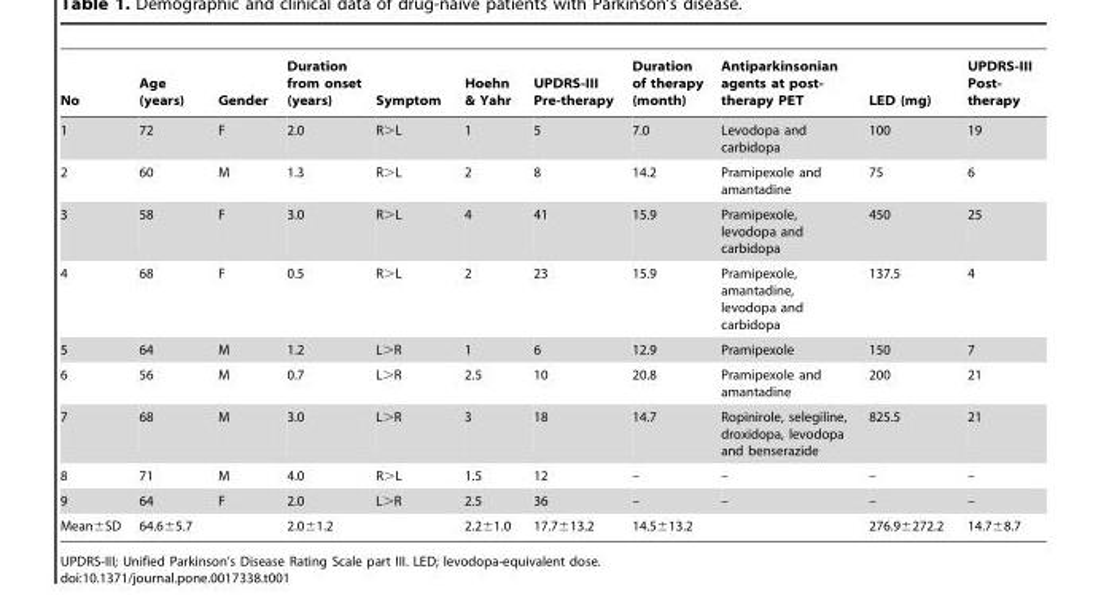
<table><thead><tr><td>No</td><td>Age (years)</td><td>Gender</td><td>Duration from onset (years)</td><td>Symptom</td><td>Hoehn &amp; Yahr</td><td>UPDRS-III Pre-therapy</td><td>Duration of therapy (month)</td><td>Antiparkinsonian agents at post- therapy PET</td><td>LED (mg)</td><td>UPDRS-III Post- therapy</td></tr></thead><tbody><tr><td>1</td><td>72</td><td>F</td><td>2.0</td><td>R&gt;L</td><td>1</td><td>5</td><td>7.0</td><td>Levodopa and carbidopa</td><td>100</td><td>19</td></tr><tr><td>2</td><td>60</td><td>M</td><td>1.3</td><td>R&gt;L</td><td>2</td><td>8</td><td>14.2</td><td>Pramipexole and amantadine</td><td>75</td><td>6</td></tr><tr><td>3</td><td>58</td><td>F</td><td>3.0</td><td>R&gt;L</td><td>4</td><td>41</td><td>15.9</td><td>Pramipexole, levodopa and carbidopa</td><td>450</td><td>25</td></tr><tr><td>4</td><td>68</td><td>F</td><td>0.5</td><td>R&gt;L</td><td>2</td><td>23</td><td>15.9</td><td>Pramipexole, amantadine, levodopa and carbidopa</td><td>137.5</td><td>4</td></tr><tr><td>5</td><td>64</td><td>M</td><td>1.2</td><td>L&gt;R</td><td>1</td><td>6</td><td>12.9</td><td>Pramipexole</td><td>150</td><td>7</td></tr><tr><td>6</td><td>56</td><td>M</td><td>0.7</td><td>L&gt;R</td><td>2.5</td><td>10</td><td>20.8</td><td>Pramipexole and amantadine</td><td>200</td><td>21</td></tr><tr><td>7</td><td>68</td><td>M</td><td>3.0</td><td>L&gt;R</td><td>3</td><td>18</td><td>14.7</td><td>Ropinirole, selegiline, droxidopa, levodopa and benserazide</td><td>825.5</td><td>21</td></tr><tr><td>8</td><td>71</td><td>M</td><td>4.0</td><td>R&gt;L</td><td>1.5</td><td>12</td><td>–</td><td>–</td><td>–</td><td>–</td></tr><tr><td>9</td><td>64</td><td>F</td><td>2.0</td><td>L&gt;R</td><td>2.5</td><td>36</td><td>–</td><td>–</td><td>–</td><td>–</td></tr><tr><td>Mean±SD</td><td>64.6±5.7</td><td></td><td>2.0±1.2</td><td></td><td>2.2±1.0</td><td>17.7±13.2</td><td>14.5±13.2</td><td></td><td>276.9±272.2</td><td>14.7±8.7</td></tr></tbody></table>